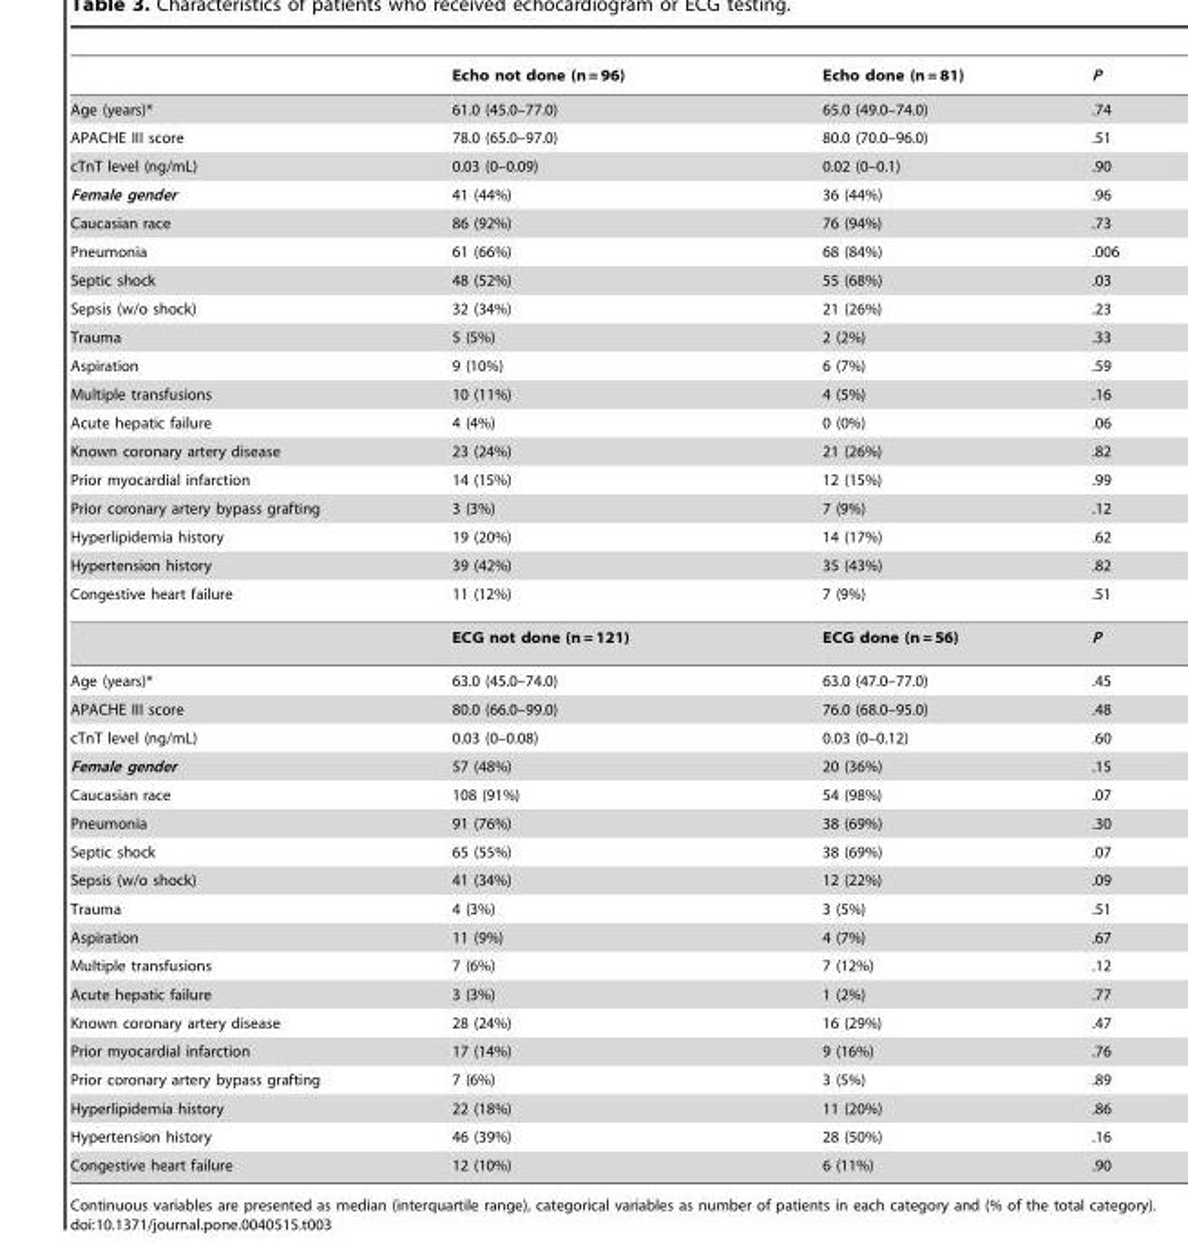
<table><thead><tr><td></td><td>Echo not done (n = 96)</td><td>Echo done (n = 81)</td><td>P</td></tr></thead><tbody><tr><td>Age (years)*</td><td>61.0 (45.0–77.0)</td><td>65.0 (49.0–74.0)</td><td>.74</td></tr><tr><td>APACHE III score</td><td>78.0 (65.0–97.0)</td><td>80.0 (70.0–96.0)</td><td>.51</td></tr><tr><td>cTnT level (ng/mL)</td><td>0.03 (0–0.09)</td><td>0.02 (0–0.1)</td><td>.90</td></tr><tr><td>Female gender</td><td>41 (44%)</td><td>36 (44%)</td><td>.96</td></tr><tr><td>Caucasian race</td><td>86 (92%)</td><td>76 (94%)</td><td>.73</td></tr><tr><td>Pneumonia</td><td>61 (66%)</td><td>68 (84%)</td><td>.006</td></tr><tr><td>Septic shock</td><td>48 (52%)</td><td>55 (68%)</td><td>.03</td></tr><tr><td>Sepsis (w/o shock)</td><td>32 (34%)</td><td>21 (26%)</td><td>.23</td></tr><tr><td>Trauma</td><td>5 (5%)</td><td>2 (2%)</td><td>.33</td></tr><tr><td>Aspiration</td><td>9 (10%)</td><td>6 (7%)</td><td>.59</td></tr><tr><td>Multiple transfusions</td><td>10 (11%)</td><td>4 (5%)</td><td>.16</td></tr><tr><td>Acute hepatic failure</td><td>4 (4%)</td><td>0 (0%)</td><td>.06</td></tr><tr><td>Known coronary artery disease</td><td>23 (24%)</td><td>21 (26%)</td><td>.82</td></tr><tr><td>Prior myocardial infarction</td><td>14 (15%)</td><td>12 (15%)</td><td>.99</td></tr><tr><td>Prior coronary artery bypass grafting</td><td>3 (3%)</td><td>7 (9%)</td><td>.12</td></tr><tr><td>Hyperlipidemia history</td><td>19 (20%)</td><td>14 (17%)</td><td>.62</td></tr><tr><td>Hypertension history</td><td>39 (42%)</td><td>35 (43%)</td><td>.82</td></tr><tr><td rowspan="2">Congestive heart failure</td><td>11 (12%)</td><td>7 (9%)</td><td>.51</td></tr><tr><td>ECG not done (n = 121)</td><td>ECG done (n = 56)</td><td>P</td></tr><tr><td>Age (years)*</td><td>63.0 (45.0–74.0)</td><td>63.0 (47.0–77.0)</td><td>.45</td></tr><tr><td>APACHE III score</td><td>80.0 (66.0–99.0)</td><td>76.0 (68.0–95.0)</td><td>.48</td></tr><tr><td>cTnT level (ng/mL)</td><td>0.03 (0–0.08)</td><td>0.03 (0–0.12)</td><td>.60</td></tr><tr><td>Female gender</td><td>57 (48%)</td><td>20 (36%)</td><td>.15</td></tr><tr><td>Caucasian race</td><td>108 (91%)</td><td>54 (98%)</td><td>.07</td></tr><tr><td>Pneumonia</td><td>91 (76%)</td><td>38 (69%)</td><td>.30</td></tr><tr><td>Septic shock</td><td>65 (55%)</td><td>38 (69%)</td><td>.07</td></tr><tr><td>Sepsis (w/o shock)</td><td>41 (34%)</td><td>12 (22%)</td><td>.09</td></tr><tr><td>Trauma</td><td>4 (3%)</td><td>3 (5%)</td><td>.51</td></tr><tr><td>Aspiration</td><td>11 (9%)</td><td>4 (7%)</td><td>.67</td></tr><tr><td>Multiple transfusions</td><td>7 (6%)</td><td>7 (12%)</td><td>.12</td></tr><tr><td>Acute hepatic failure</td><td>3 (3%)</td><td>1 (2%)</td><td>.77</td></tr><tr><td>Known coronary artery disease</td><td>28 (24%)</td><td>16 (29%)</td><td>.47</td></tr><tr><td>Prior myocardial infarction</td><td>17 (14%)</td><td>9 (16%)</td><td>.76</td></tr><tr><td>Prior coronary artery bypass grafting</td><td>7 (6%)</td><td>3 (5%)</td><td>.89</td></tr><tr><td>Hyperlipidemia history</td><td>22 (18%)</td><td>11 (20%)</td><td>.86</td></tr><tr><td>Hypertension history</td><td>46 (39%)</td><td>28 (50%)</td><td>.16</td></tr><tr><td>Congestive heart failure</td><td>12 (10%)</td><td>6 (11%)</td><td>.90</td></tr></tbody></table>